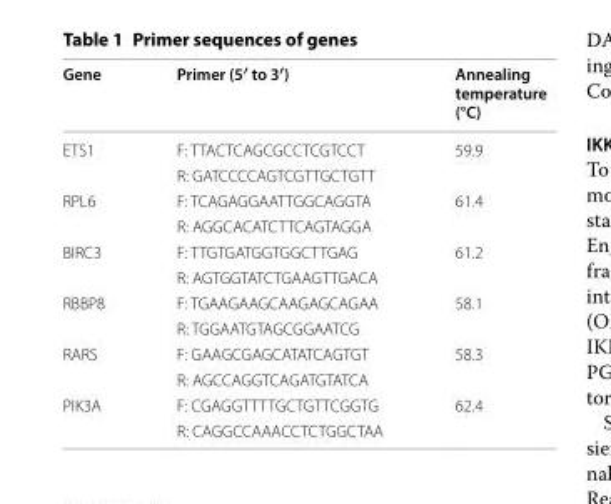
<table><thead><tr><td>Gene</td><td>Primer (5′ to 3′)</td><td>Annealing temperature (°C)</td></tr></thead><tbody><tr><td rowspan="2">ETS1</td><td>F: TTA CTC AGC GCC TCG TCC T</td><td rowspan="2">59.9</td></tr><tr><td>R: GAT CCC CAG TCG TTG CTG TT</td></tr><tr><td rowspan="2">RPL6</td><td>F: TCA GAG GAA TTG GCA GGT A</td><td rowspan="2">61.4</td></tr><tr><td>R: AGG CAC ATC TTC AGT AGG A</td></tr><tr><td rowspan="2">BIRC3</td><td>F: TTG TGA TGG TGG CTT GAG</td><td rowspan="2">61.2</td></tr><tr><td>R: AGT GGT ATC TGA AGT TGA CA</td></tr><tr><td rowspan="2">RBBP8</td><td>F: TGA AGA AGC AAG AGC AGA A</td><td rowspan="2">58.1</td></tr><tr><td>R: TGG AAT GTA GCG GAA TCG</td></tr><tr><td rowspan="2">RARS</td><td>F: GAA GCG AGC ATA TCA GTG T</td><td rowspan="2">58.3</td></tr><tr><td>R: AGC CAG GTC AGA TGT ATC A</td></tr><tr><td rowspan="2">PIK3A</td><td>F: CGA GGT TTT GCT GTT CGG TG</td><td rowspan="2">62.4</td></tr><tr><td>R: CAG GCC AAA CCT CTG GCT AA</td></tr></tbody></table>